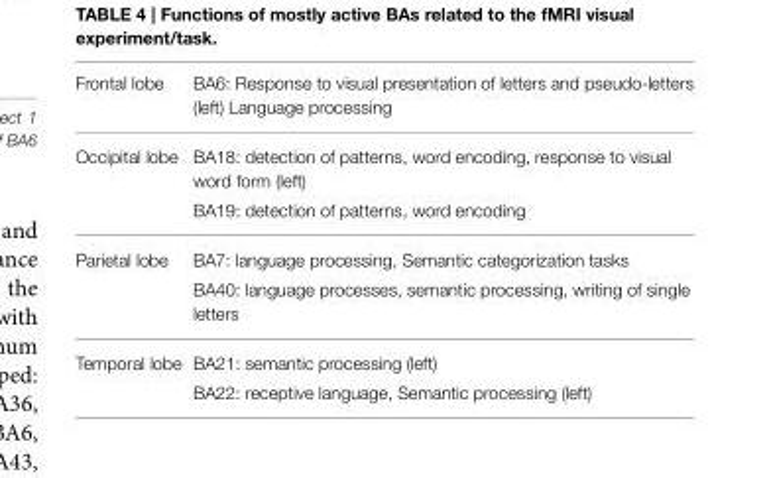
<table><tbody><tr><td>Frontal lobe</td><td>BA6: Response to visual presentation of letters and pseudo-letters (left) Language processing</td></tr><tr><td rowspan="2">Occipital lobe</td><td>BA18: detection of patterns, word encoding, response to visual word form (left)</td></tr><tr><td>BA19: detection of patterns, word encoding</td></tr><tr><td rowspan="2">Parietal lobe</td><td>BA7: language processing, Semantic categorization tasks</td></tr><tr><td>BA40: language processes, semantic processing, writing of single letters</td></tr><tr><td rowspan="2">Temporal lobe</td><td>BA21: semantic processing (left)</td></tr><tr><td>BA22: receptive language, Semantic processing (left)</td></tr></tbody></table>